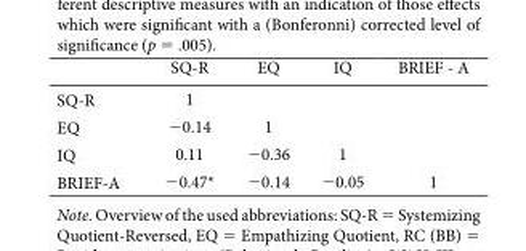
<table><thead><tr><td></td><td>SQ-R</td><td>EQ</td><td>IQ</td><td>BRIEF - A</td></tr></thead><tbody><tr><td>SQ-R</td><td>1</td><td></td><td></td><td></td></tr><tr><td>EQ</td><td>−0.14</td><td>1</td><td></td><td></td></tr><tr><td>IQ</td><td>0.11</td><td>−0.36</td><td>1</td><td></td></tr><tr><td>BRIEF-A</td><td>−0.47*</td><td>−0.14</td><td>−0.05</td><td>1</td></tr></tbody></table>